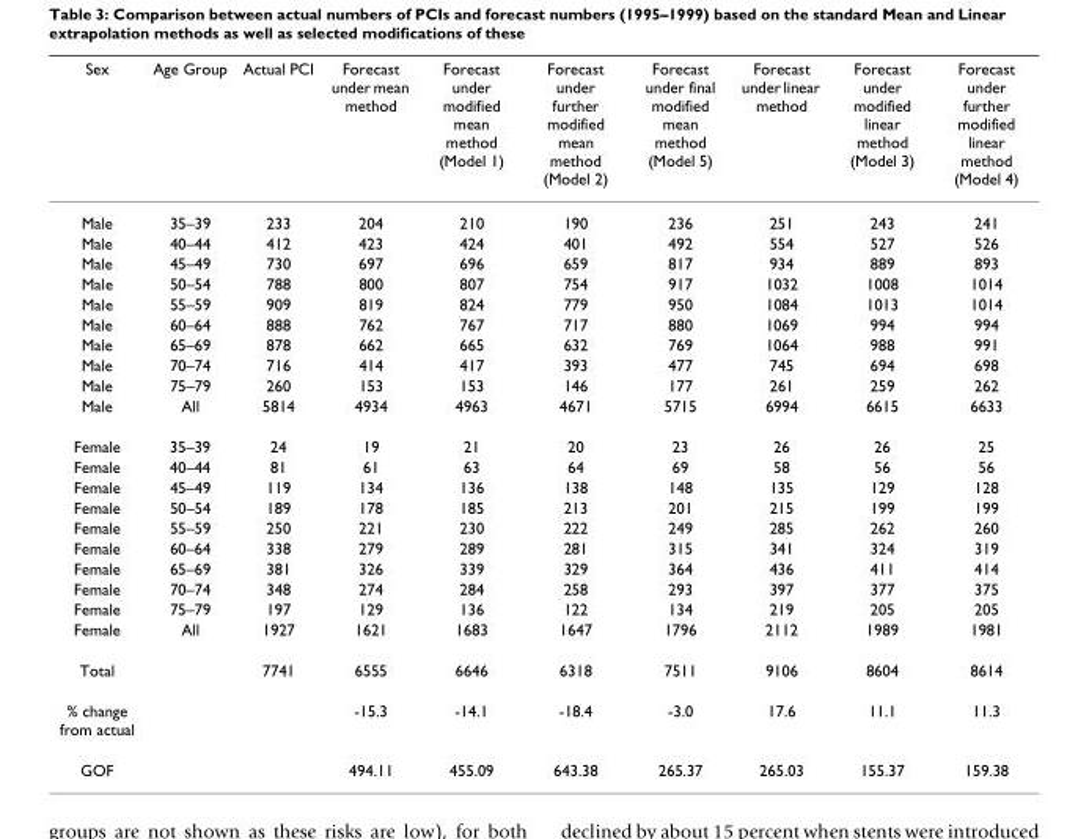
<table><thead><tr><td>Sex</td><td>Age Group</td><td>Actual PCI</td><td>Forecast under mean method</td><td>Forecast under modified mean method (Model 1)</td><td>Forecast under further modified mean method (Model 2)</td><td>Forecast under final modified mean method (Model 5)</td><td>Forecast under linear method</td><td>Forecast under modified linear method (Model 3)</td><td>Forecast under further modified linear method (Model 4)</td></tr></thead><tbody><tr><td>Male</td><td>35–39</td><td>233</td><td>204</td><td>210</td><td>190</td><td>236</td><td>251</td><td>243</td><td>241</td></tr><tr><td>Male</td><td>40–44</td><td>412</td><td>423</td><td>424</td><td>401</td><td>492</td><td>554</td><td>527</td><td>526</td></tr><tr><td>Male</td><td>45–49</td><td>730</td><td>697</td><td>696</td><td>659</td><td>817</td><td>934</td><td>889</td><td>893</td></tr><tr><td>Male</td><td>50–54</td><td>788</td><td>800</td><td>807</td><td>754</td><td>917</td><td>1032</td><td>1008</td><td>1014</td></tr><tr><td>Male</td><td>55–59</td><td>909</td><td>819</td><td>824</td><td>779</td><td>950</td><td>1084</td><td>1013</td><td>1014</td></tr><tr><td>Male</td><td>60–64</td><td>888</td><td>762</td><td>767</td><td>717</td><td>880</td><td>1069</td><td>994</td><td>994</td></tr><tr><td>Male</td><td>65–69</td><td>878</td><td>662</td><td>665</td><td>632</td><td>769</td><td>1064</td><td>988</td><td>991</td></tr><tr><td>Male</td><td>70–74</td><td>716</td><td>414</td><td>417</td><td>393</td><td>477</td><td>745</td><td>694</td><td>698</td></tr><tr><td>Male</td><td>75–79</td><td>260</td><td>153</td><td>153</td><td>146</td><td>177</td><td>261</td><td>259</td><td>262</td></tr><tr><td>Male</td><td>All</td><td>5814</td><td>4934</td><td>4963</td><td>4671</td><td>5715</td><td>6994</td><td>6615</td><td>6633</td></tr><tr><td>Female</td><td>35–39</td><td>24</td><td>19</td><td>21</td><td>20</td><td>23</td><td>26</td><td>26</td><td>25</td></tr><tr><td>Female</td><td>40–44</td><td>81</td><td>61</td><td>63</td><td>64</td><td>69</td><td>58</td><td>56</td><td>56</td></tr><tr><td>Female</td><td>45–49</td><td>119</td><td>134</td><td>136</td><td>138</td><td>148</td><td>135</td><td>129</td><td>128</td></tr><tr><td>Female</td><td>50–54</td><td>189</td><td>178</td><td>185</td><td>213</td><td>201</td><td>215</td><td>199</td><td>199</td></tr><tr><td>Female</td><td>55–59</td><td>250</td><td>221</td><td>230</td><td>222</td><td>249</td><td>285</td><td>262</td><td>260</td></tr><tr><td>Female</td><td>60–64</td><td>338</td><td>279</td><td>289</td><td>281</td><td>315</td><td>341</td><td>324</td><td>319</td></tr><tr><td>Female</td><td>65–69</td><td>381</td><td>326</td><td>339</td><td>329</td><td>364</td><td>436</td><td>411</td><td>414</td></tr><tr><td>Female</td><td>70–74</td><td>348</td><td>274</td><td>284</td><td>258</td><td>293</td><td>397</td><td>377</td><td>375</td></tr><tr><td>Female</td><td>75–79</td><td>197</td><td>129</td><td>136</td><td>122</td><td>134</td><td>219</td><td>205</td><td>205</td></tr><tr><td>Female</td><td>All</td><td>1927</td><td>1621</td><td>1683</td><td>1647</td><td>1796</td><td>2112</td><td>1989</td><td>1981</td></tr><tr><td>Total</td><td></td><td>7741</td><td>6555</td><td>6646</td><td>6318</td><td>7511</td><td>9106</td><td>8604</td><td>8614</td></tr><tr><td>% change from actual</td><td></td><td></td><td>-15.3</td><td>-14.1</td><td>-18.4</td><td>-3.0</td><td>17.6</td><td>11.1</td><td>11.3</td></tr><tr><td>GOF</td><td></td><td></td><td>494.11</td><td>455.09</td><td>643.38</td><td>265.37</td><td>265.03</td><td>155.37</td><td>159.38</td></tr></tbody></table>